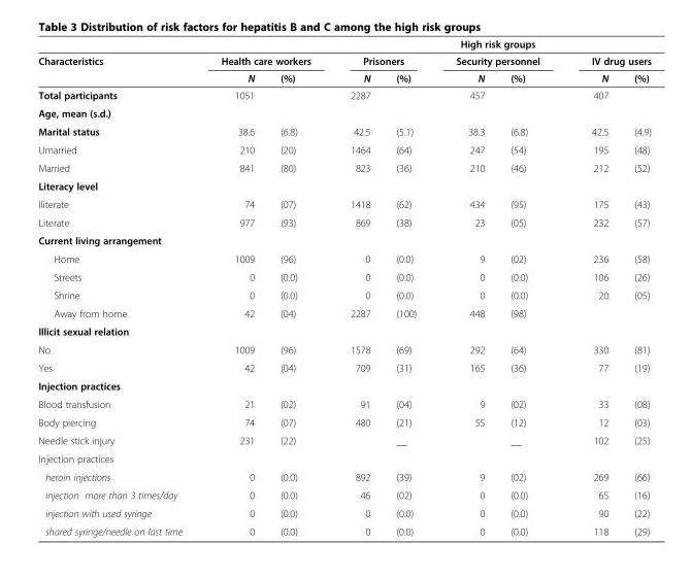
<table><thead><tr><td rowspan="3">Characteristics</td><td></td><td></td><td></td><td></td><td rowspan="2" colspan="2">High risk groups Security personnel</td><td></td><td></td></tr><tr><td colspan="2">Health care workers</td><td colspan="2">Prisoners</td><td colspan="2">IV drug users</td></tr><tr><td>N</td><td>(%)</td><td>N</td><td>(%)</td><td>N</td><td>(%)</td><td>N</td><td>(%)</td></tr></thead><tbody><tr><td>Total participants</td><td>1051</td><td></td><td>2287</td><td></td><td>457</td><td></td><td>407</td><td></td></tr><tr><td colspan="9">Age, mean (s.d.)</td></tr><tr><td>Marital status</td><td>38.6</td><td>(6.8)</td><td>42.5</td><td>(5.1)</td><td>38.3</td><td>(6.8)</td><td>42.5</td><td>(4.9)</td></tr><tr><td>Umarried</td><td>210</td><td>(20)</td><td>1464</td><td>(64)</td><td>247</td><td>(54)</td><td>195</td><td>(48)</td></tr><tr><td>Married</td><td>841</td><td>(80)</td><td>823</td><td>(36)</td><td>210</td><td>(46)</td><td>212</td><td>(52)</td></tr><tr><td colspan="9">Literacy level</td></tr><tr><td>Iliterate</td><td>74</td><td>(07)</td><td>1418</td><td>(62)</td><td>434</td><td>(95)</td><td>175</td><td>(43)</td></tr><tr><td>Literate</td><td>977</td><td>(93)</td><td>869</td><td>(38)</td><td>23</td><td>(05)</td><td>232</td><td>(57)</td></tr><tr><td colspan="9">Current living arrangement</td></tr><tr><td>Home</td><td>1009</td><td>(96)</td><td>0</td><td>(0.0)</td><td>9</td><td>(02)</td><td>236</td><td>(58)</td></tr><tr><td>Streets</td><td>0</td><td>(0.0)</td><td>0</td><td>(0.0)</td><td>0</td><td>(0.0)</td><td>106</td><td>(26)</td></tr><tr><td>Shrine</td><td>0</td><td>(0.0)</td><td>0</td><td>(0.0)</td><td>0</td><td>(0.0)</td><td>20</td><td>(05)</td></tr><tr><td>Away from home</td><td>42</td><td>(04)</td><td>2287</td><td>(100)</td><td>448</td><td>(98)</td><td></td><td></td></tr><tr><td colspan="9">Illicit sexual relation</td></tr><tr><td>No</td><td>1009</td><td>(96)</td><td>1578</td><td>(69)</td><td>292</td><td>(64)</td><td>330</td><td>(81)</td></tr><tr><td>Yes</td><td>42</td><td>(04)</td><td>709</td><td>(31)</td><td>165</td><td>(36)</td><td>77</td><td>(19)</td></tr><tr><td colspan="9">Injection practices</td></tr><tr><td>Blood transfusion</td><td>21</td><td>(02)</td><td>91</td><td>(04)</td><td>9</td><td>(02)</td><td>33</td><td>(08)</td></tr><tr><td>Body piercing</td><td>74</td><td>(07)</td><td>480</td><td>(21)</td><td>55</td><td>(12)</td><td>12</td><td>(03)</td></tr><tr><td>Needle stick injury</td><td>231</td><td>(22)</td><td></td><td>__</td><td></td><td>__</td><td>102</td><td>(25)</td></tr><tr><td colspan="9">Injection practices</td></tr><tr><td>heroin injections</td><td>0</td><td>(0.0)</td><td>892</td><td>(39)</td><td>9</td><td>(02)</td><td>269</td><td>(66)</td></tr><tr><td>injection more than 3 times/day</td><td>0</td><td>(0.0)</td><td>46</td><td>(02)</td><td>0</td><td>(0.0)</td><td>65</td><td>(16)</td></tr><tr><td>injection with used syringe</td><td>0</td><td>(0.0)</td><td>0</td><td>(0.0)</td><td>0</td><td>(0.0)</td><td>90</td><td>(22)</td></tr><tr><td>shared syringe/needle on last time</td><td>0</td><td>(0.0)</td><td>0</td><td>(0.0)</td><td>0</td><td>(0.0)</td><td>118</td><td>(29)</td></tr></tbody></table>